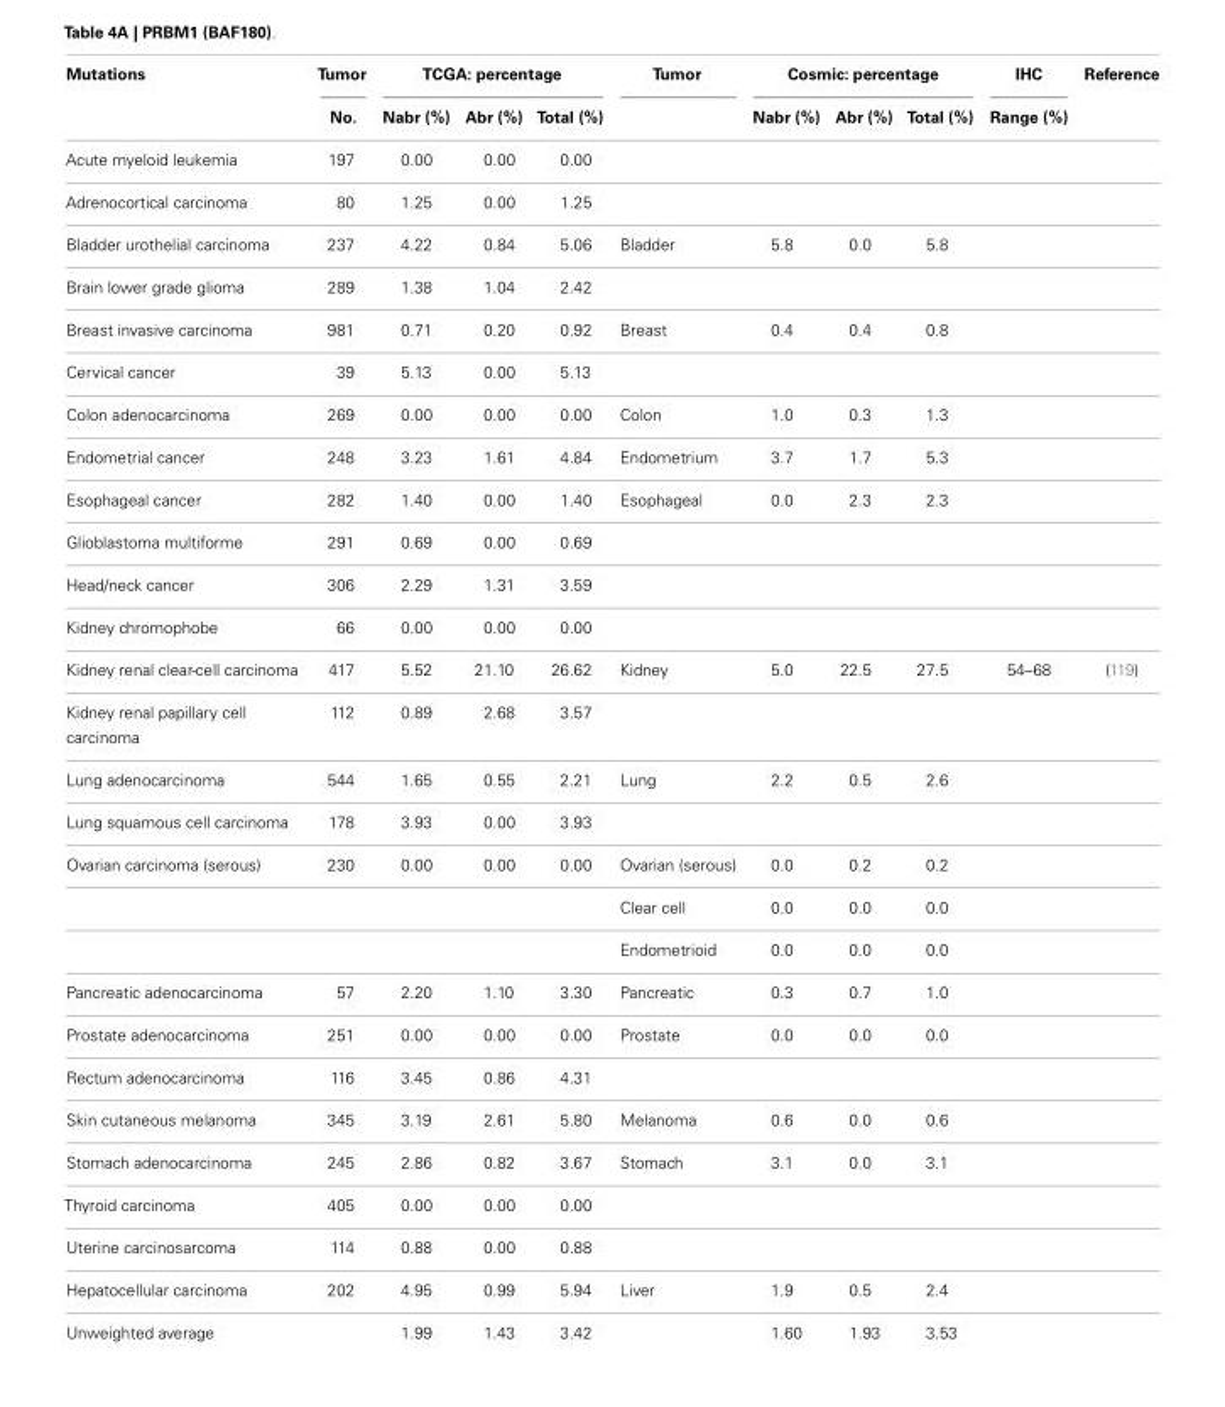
<table><thead><tr><td rowspan="2">Mutations</td><td rowspan="2">Tumor No.</td><td colspan="3">TCGA: percentage</td><td rowspan="2">Tumor</td><td colspan="3">Cosmic: percentage</td><td rowspan="2">IHC Range (%)</td><td rowspan="2">Reference</td></tr><tr><td>Nabr (%)</td><td>Abr (%)</td><td>Total (%)</td><td>Nabr (%)</td><td>Abr (%)</td><td>Total (%)</td></tr></thead><tbody><tr><td>Acute myeloid leukemia</td><td>197</td><td>0.00</td><td>0.00</td><td>0.00</td><td></td><td></td><td></td><td></td><td></td><td></td></tr><tr><td>Adrenocortical carcinoma</td><td>80</td><td>1.25</td><td>0.00</td><td>1.25</td><td></td><td></td><td></td><td></td><td></td><td></td></tr><tr><td>Bladder urothelial carcinoma</td><td>237</td><td>4.22</td><td>0.84</td><td>5.06</td><td>Bladder</td><td>5.8</td><td>0.0</td><td>5.8</td><td></td><td></td></tr><tr><td>Brain lower grade glioma</td><td>289</td><td>1.38</td><td>1.04</td><td>2.42</td><td></td><td></td><td></td><td></td><td></td><td></td></tr><tr><td>Breast invasive carcinoma</td><td>981</td><td>0.71</td><td>0.20</td><td>0.92</td><td>Breast</td><td>0.4</td><td>0.4</td><td>0.8</td><td></td><td></td></tr><tr><td>Cervical cancer</td><td>39</td><td>5.13</td><td>0.00</td><td>5.13</td><td></td><td></td><td></td><td></td><td></td><td></td></tr><tr><td>Colon adenocarcinoma</td><td>269</td><td>0.00</td><td>0.00</td><td>0.00</td><td>Colon</td><td>1.0</td><td>0.3</td><td>1.3</td><td></td><td></td></tr><tr><td>Endometrial cancer</td><td>248</td><td>3.23</td><td>1.61</td><td>4.84</td><td>Endometrium</td><td>3.7</td><td>1.7</td><td>5.3</td><td></td><td></td></tr><tr><td>Esophageal cancer</td><td>282</td><td>1.40</td><td>0.00</td><td>1.40</td><td>Esophageal</td><td>0.0</td><td>2.3</td><td>2.3</td><td></td><td></td></tr><tr><td>Glioblastoma multiforme</td><td>291</td><td>0.69</td><td>0.00</td><td>0.69</td><td></td><td></td><td></td><td></td><td></td><td></td></tr><tr><td>Head/neck cancer</td><td>306</td><td>2.29</td><td>1.31</td><td>3.59</td><td></td><td></td><td></td><td></td><td></td><td></td></tr><tr><td>Kidney chromophobe</td><td>66</td><td>0.00</td><td>0.00</td><td>0.00</td><td></td><td></td><td></td><td></td><td></td><td></td></tr><tr><td>Kidney renal clear-cell carcinoma</td><td>417</td><td>5.52</td><td>21.10</td><td>26.62</td><td>Kidney</td><td>5.0</td><td>22.5</td><td>27.5</td><td>54–68</td><td>(119)</td></tr><tr><td>Kidney renal papillary cell carcinoma</td><td>112</td><td>0.89</td><td>2.68</td><td>3.57</td><td></td><td></td><td></td><td></td><td></td><td></td></tr><tr><td>Lung adenocarcinoma</td><td>544</td><td>1.65</td><td>0.55</td><td>2.21</td><td>Lung</td><td>2.2</td><td>0.5</td><td>2.6</td><td></td><td></td></tr><tr><td>Lung squamous cell carcinoma</td><td>178</td><td>3.93</td><td>0.00</td><td>3.93</td><td></td><td></td><td></td><td></td><td></td><td></td></tr><tr><td rowspan="3">Ovarian carcinoma (serous)</td><td>230</td><td>0.00</td><td>0.00</td><td>0.00</td><td>Ovarian (serous)</td><td>0.0</td><td>0.2</td><td>0.2</td><td></td><td></td></tr><tr><td></td><td></td><td></td><td></td><td>Clear cell</td><td>0.0</td><td>0.0</td><td>0.0</td><td></td><td></td></tr><tr><td></td><td></td><td></td><td></td><td>Endometrioid</td><td>0.0</td><td>0.0</td><td>0.0</td><td></td><td></td></tr><tr><td>Pancreatic adenocarcinoma</td><td>57</td><td>2.20</td><td>1.10</td><td>3.30</td><td>Pancreatic</td><td>0.3</td><td>0.7</td><td>1.0</td><td></td><td></td></tr><tr><td>Prostate adenocarcinoma</td><td>251</td><td>0.00</td><td>0.00</td><td>0.00</td><td>Prostate</td><td>0.0</td><td>0.0</td><td>0.0</td><td></td><td></td></tr><tr><td>Rectum adenocarcinoma</td><td>116</td><td>3.45</td><td>0.86</td><td>4.31</td><td></td><td></td><td></td><td></td><td></td><td></td></tr><tr><td>Skin cutaneous melanoma</td><td>345</td><td>3.19</td><td>2.61</td><td>5.80</td><td>Melanoma</td><td>0.6</td><td>0.0</td><td>0.6</td><td></td><td></td></tr><tr><td>Stomach adenocarcinoma</td><td>245</td><td>2.86</td><td>0.82</td><td>3.67</td><td>Stomach</td><td>3.1</td><td>0.0</td><td>3.1</td><td></td><td></td></tr><tr><td>Thyroid carcinoma</td><td>405</td><td>0.00</td><td>0.00</td><td>0.00</td><td></td><td></td><td></td><td></td><td></td><td></td></tr><tr><td>Uterine carcinosarcoma</td><td>114</td><td>0.88</td><td>0.00</td><td>0.88</td><td></td><td></td><td></td><td></td><td></td><td></td></tr><tr><td>Hepatocellular carcinoma</td><td>202</td><td>4.95</td><td>0.99</td><td>5.94</td><td>Liver</td><td>1.9</td><td>0.5</td><td>2.4</td><td></td><td></td></tr><tr><td>Unweighted average</td><td></td><td>1.99</td><td>1.43</td><td>3.42</td><td></td><td>1.60</td><td>1.93</td><td>3.53</td><td></td><td></td></tr></tbody></table>